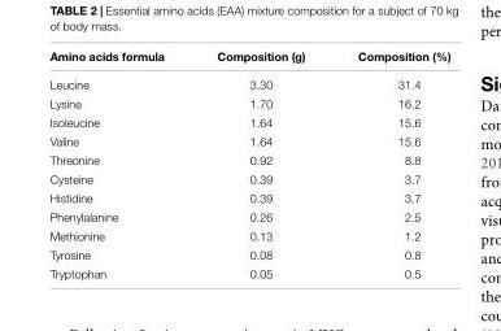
<table><thead><tr><td>Amino acids formula</td><td>Composition (g)</td><td>Composition (%)</td></tr></thead><tbody><tr><td>Leucine</td><td>3.30</td><td>31.4</td></tr><tr><td>Lysine</td><td>1.70</td><td>16.2</td></tr><tr><td>Isoleucine</td><td>1.64</td><td>15.6</td></tr><tr><td>Valine</td><td>1.64</td><td>15.6</td></tr><tr><td>Threonine</td><td>0.92</td><td>8.8</td></tr><tr><td>Cysteine</td><td>0.39</td><td>3.7</td></tr><tr><td>Histidine</td><td>0.39</td><td>3.7</td></tr><tr><td>Phenylalanine</td><td>0.26</td><td>2.5</td></tr><tr><td>Methionine</td><td>0.13</td><td>1.2</td></tr><tr><td>Tyrosine</td><td>0.08</td><td>0.8</td></tr><tr><td>Tryptophan</td><td>0.05</td><td>0.5</td></tr></tbody></table>